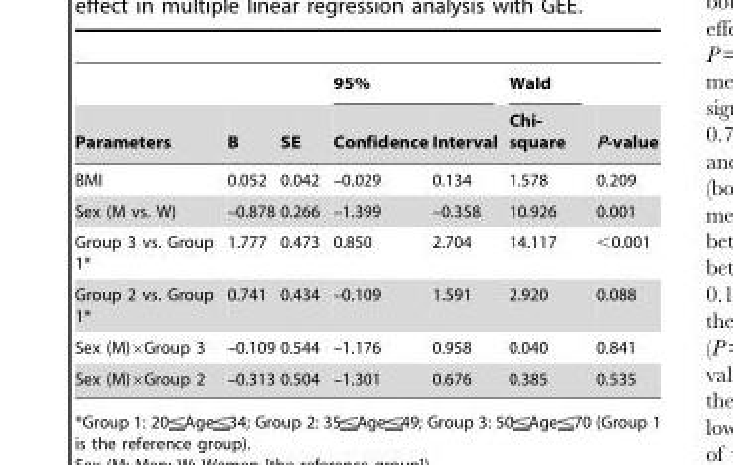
<table><thead><tr><td rowspan="2">Parameters</td><td rowspan="2">B</td><td rowspan="2">SE</td><td colspan="2">95%</td><td rowspan="2">Wald Chi- square</td><td rowspan="2">P-value</td></tr><tr><td>Confidence</td><td>Interval</td></tr></thead><tbody><tr><td>BMI</td><td>0.052</td><td>0.042</td><td>–0.029</td><td>0.134</td><td>1.578</td><td>0.209</td></tr><tr><td>Sex (M vs. W)</td><td>–0.878</td><td>0.266</td><td>–1.399</td><td>–0.358</td><td>10.926</td><td>0.001</td></tr><tr><td>Group 3 vs. Group 1*</td><td>1.777</td><td>0.473</td><td>0.850</td><td>2.704</td><td>14.117</td><td>&lt;0.001</td></tr><tr><td>Group 2 vs. Group 1*</td><td>0.741</td><td>0.434</td><td>–0.109</td><td>1.591</td><td>2.920</td><td>0.088</td></tr><tr><td>Sex (M)×Group 3</td><td>–0.109</td><td>0.544</td><td>–1.176</td><td>0.958</td><td>0.040</td><td>0.841</td></tr><tr><td>Sex (M)×Group 2</td><td>–0.313</td><td>0.504</td><td>–1.301</td><td>0.676</td><td>0.385</td><td>0.535</td></tr></tbody></table>